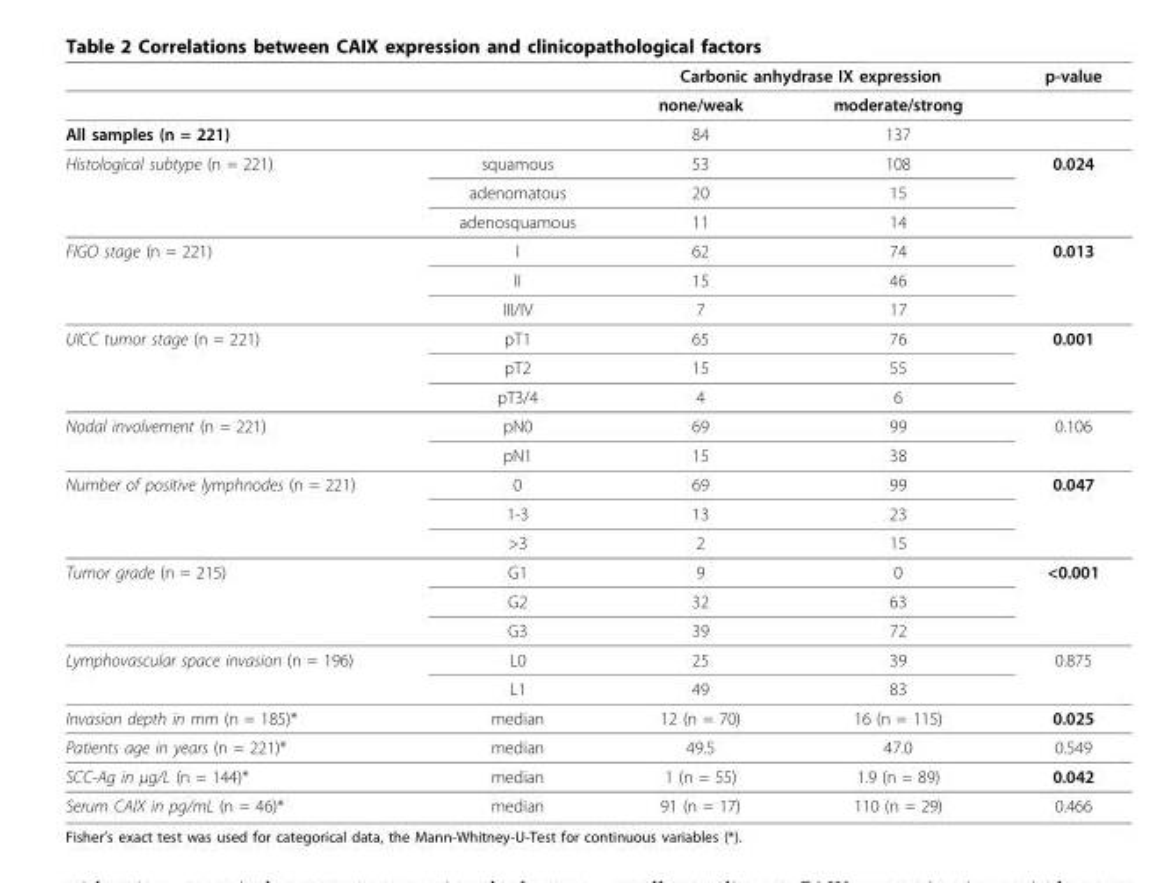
<table><thead><tr><td rowspan="2"></td><td rowspan="2"></td><td colspan="2">Carbonic anhydrase IX expression</td><td rowspan="2">p-value</td></tr><tr><td>none/weak</td><td>moderate/strong</td></tr></thead><tbody><tr><td>All samples (n = 221)</td><td></td><td>84</td><td>137</td><td></td></tr><tr><td rowspan="3">Histological subtype (n = 221)</td><td>squamous</td><td>53</td><td>108</td><td>0.024</td></tr><tr><td>adenomatous</td><td>20</td><td>15</td><td></td></tr><tr><td>adenosquamous</td><td>11</td><td>14</td><td></td></tr><tr><td rowspan="3">FIGO stage (n = 221)</td><td>I</td><td>62</td><td>74</td><td>0.013</td></tr><tr><td>II</td><td>15</td><td>46</td><td></td></tr><tr><td>III/IV</td><td>7</td><td>17</td><td></td></tr><tr><td rowspan="3">UICC tumor stage (n = 221)</td><td>pT1</td><td>65</td><td>76</td><td>0.001</td></tr><tr><td>pT2</td><td>15</td><td>55</td><td></td></tr><tr><td>pT3/4</td><td>4</td><td>6</td><td></td></tr><tr><td rowspan="2">Nodal involvement (n = 221)</td><td>pN0</td><td>69</td><td>99</td><td>0.106</td></tr><tr><td>pN1</td><td>15</td><td>38</td><td></td></tr><tr><td rowspan="3">Number of positive lymphnodes (n = 221)</td><td>0</td><td>69</td><td>99</td><td>0.047</td></tr><tr><td>1-3</td><td>13</td><td>23</td><td></td></tr><tr><td>&gt;3</td><td>2</td><td>15</td><td></td></tr><tr><td rowspan="3">Tumor grade (n = 215)</td><td>G1</td><td>9</td><td>0</td><td>&lt;0.001</td></tr><tr><td>G2</td><td>32</td><td>63</td><td></td></tr><tr><td>G3</td><td>39</td><td>72</td><td></td></tr><tr><td rowspan="2">Lymphovascular space invasion (n = 196)</td><td>L0</td><td>25</td><td>39</td><td>0.875</td></tr><tr><td>L1</td><td>49</td><td>83</td><td></td></tr><tr><td>Invasion depth in mm (n = 185)*</td><td>median</td><td>12 (n = 70)</td><td>16 (n = 115)</td><td>0.025</td></tr><tr><td>Patients age in years (n = 221)*</td><td>median</td><td>49.5</td><td>47.0</td><td>0.549</td></tr><tr><td>SCC-Ag in μg/L (n = 144)*</td><td>median</td><td>1 (n = 55)</td><td>1.9 (n = 89)</td><td>0.042</td></tr><tr><td>Serum CAIX in pg/mL (n = 46)*</td><td>median</td><td>91 (n = 17)</td><td>110 (n = 29)</td><td>0.466</td></tr></tbody></table>